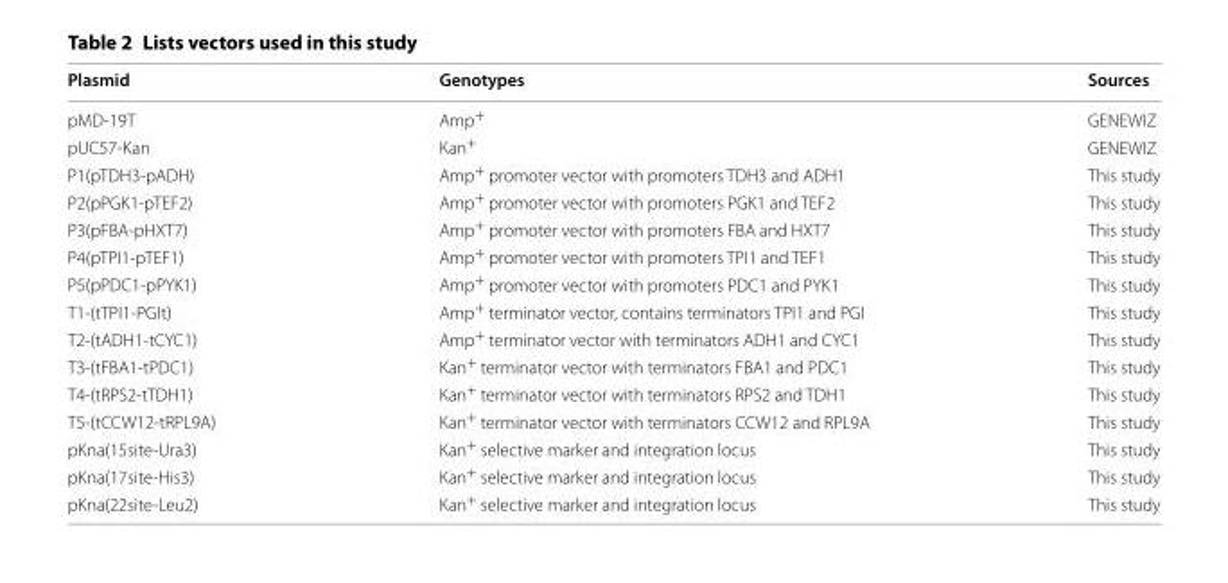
<table><thead><tr><td>Plasmid</td><td>Genotypes</td><td>Sources</td></tr></thead><tbody><tr><td>pMD-19T</td><td>Amp<sup>+</sup></td><td>GENEWIZ</td></tr><tr><td>pUC57-Kan</td><td>Kan<sup>+</sup></td><td>GENEWIZ</td></tr><tr><td>P1(pTDH3-pADH)</td><td>Amp<sup>+</sup> promoter vector with promoters TDH3 and ADH1</td><td>This study</td></tr><tr><td>P2(pPGK1-pTEF2)</td><td>Amp<sup>+</sup> promoter vector with promoters PGK1 and TEF2</td><td>This study</td></tr><tr><td>P3(pFBA-pHXT7)</td><td>Amp<sup>+</sup> promoter vector with promoters FBA and HXT7</td><td>This study</td></tr><tr><td>P4(pTPI1-pTEF1)</td><td>Amp<sup>+</sup> promoter vector with promoters TPI1 and TEF1</td><td>This study</td></tr><tr><td>P5(pPDC1-pPYK1)</td><td>Amp<sup>+</sup> promoter vector with promoters PDC1 and PYK1</td><td>This study</td></tr><tr><td>T1-(tTPI1-PGIt)</td><td>Amp<sup>+</sup> terminator vector, contains terminators TPI1 and PGI</td><td>This study</td></tr><tr><td>T2-(tADH1-tCYC1)</td><td>Amp<sup>+</sup> terminator vector with terminators ADH1 and CYC1</td><td>This study</td></tr><tr><td>T3-(tFBA1-tPDC1)</td><td>Kan<sup>+</sup> terminator vector with terminators FBA1 and PDC1</td><td>This study</td></tr><tr><td>T4-(tRPS2-tTDH1)</td><td>Kan<sup>+</sup> terminator vector with terminators RPS2 and TDH1</td><td>This study</td></tr><tr><td>T5-(tCCW12-tRPL9A)</td><td>Kan<sup>+</sup> terminator vector with terminators CCW12 and RPL9A</td><td>This study</td></tr><tr><td>pKna(15site-Ura3)</td><td>Kan<sup>+</sup> selective marker and integration locus</td><td>This study</td></tr><tr><td>pKna(17site-His3)</td><td>Kan<sup>+</sup> selective marker and integration locus</td><td>This study</td></tr><tr><td>pKna(22site-Leu2)</td><td>Kan<sup>+</sup> selective marker and integration locus</td><td>This study</td></tr></tbody></table>